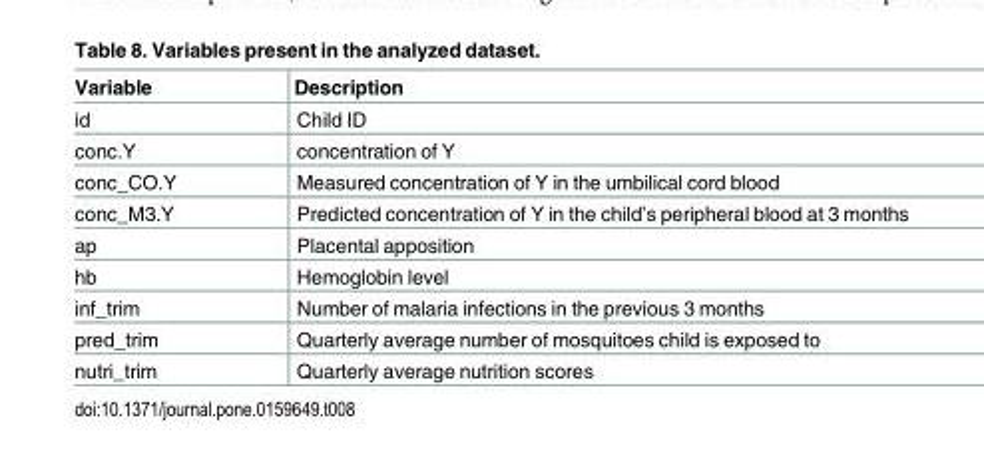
<table><thead><tr><td>Variable</td><td>Description</td></tr></thead><tbody><tr><td>id</td><td>Child ID</td></tr><tr><td>conc.Y</td><td>concentration of Y</td></tr><tr><td>conc_CO.Y</td><td>Measured concentration of Y in the umbilical cord blood</td></tr><tr><td>conc_M3.Y</td><td>Predicted concentration of Y in the child’s peripheral blood at 3 months</td></tr><tr><td>ap</td><td>Placental apposition</td></tr><tr><td>hb</td><td>Hemoglobin level</td></tr><tr><td>inf_trim</td><td>Number of malaria infections in the previous 3 months</td></tr><tr><td>pred_trim</td><td>Quarterly average number of mosquitoes child is exposed to</td></tr><tr><td>nutri_trim</td><td>Quarterly average nutrition scores</td></tr></tbody></table>